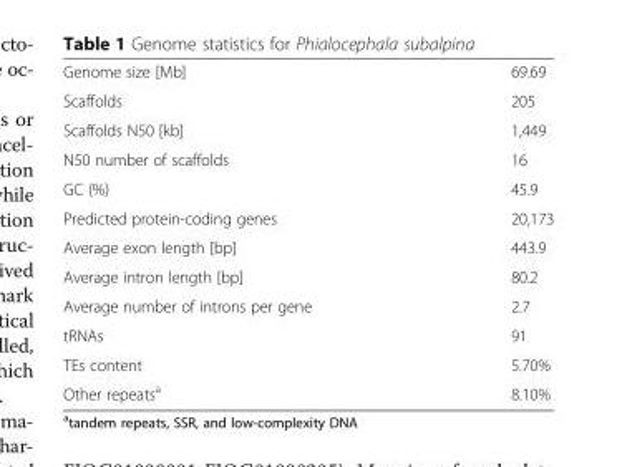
<table><tbody><tr><td>Genome size [Mb]</td><td>69.69</td></tr><tr><td>Scaffolds</td><td>205</td></tr><tr><td>Scaffolds N50 [kb]</td><td>1,449</td></tr><tr><td>N50 number of scaffolds</td><td>16</td></tr><tr><td>GC (%)</td><td>45.9</td></tr><tr><td>Predicted protein-coding genes</td><td>20,173</td></tr><tr><td>Average exon length [bp]</td><td>443.9</td></tr><tr><td>Average intron length [bp]</td><td>80.2</td></tr><tr><td>Average number of introns per gene</td><td>2.7</td></tr><tr><td>tRNAs</td><td>91</td></tr><tr><td>TEs content</td><td>5.70%</td></tr><tr><td>Other repeats<sup>a</sup></td><td>8.10%</td></tr></tbody></table>